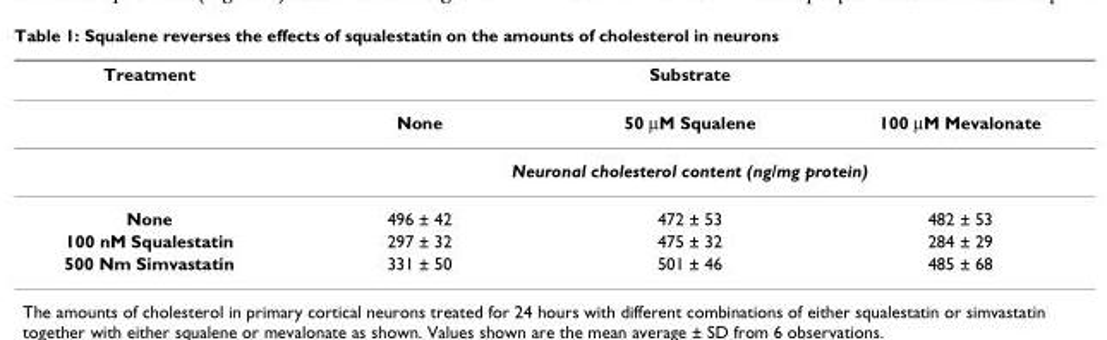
<table><thead><tr><td rowspan="2">Treatment</td><td colspan="3">Substrate</td></tr><tr><td>None</td><td>50 μM Squalene</td><td>100 μM Mevalonate</td></tr></thead><tbody><tr><td></td><td colspan="3">Neuronal cholesterol content (ng/mg protein)</td></tr><tr><td>None</td><td>496 ± 42</td><td>472 ± 53</td><td>482 ± 53</td></tr><tr><td>100 nM Squalestatin</td><td>297 ± 32</td><td>475 ± 32</td><td>284 ± 29</td></tr><tr><td>500 Nm Simvastatin</td><td>331 ± 50</td><td>501 ± 46</td><td>485 ± 68</td></tr></tbody></table>